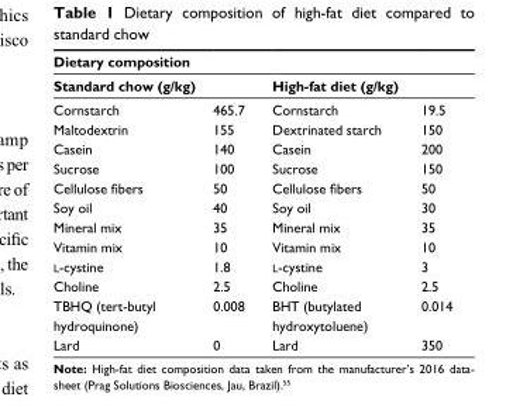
<table><thead><tr><td colspan="4">Dietary composition</td></tr><tr><td>Standard chow (g/kg)</td><td></td><td>High-fat diet (g/kg)</td><td></td></tr></thead><tbody><tr><td>Cornstarch</td><td>465.7</td><td>Cornstarch</td><td>19.5</td></tr><tr><td>Maltodextrin</td><td>155</td><td>Dextrinated starch</td><td>150</td></tr><tr><td>Casein</td><td>140</td><td>Casein</td><td>200</td></tr><tr><td>Sucrose</td><td>100</td><td>Sucrose</td><td>150</td></tr><tr><td>Cellulose fibers</td><td>50</td><td>Cellulose fibers</td><td>50</td></tr><tr><td>Soy oil</td><td>40</td><td>Soy oil</td><td>30</td></tr><tr><td>Mineral mix</td><td>35</td><td>Mineral mix</td><td>35</td></tr><tr><td>Vitamin mix</td><td>10</td><td>Vitamin mix</td><td>10</td></tr><tr><td>l-cystine</td><td>1.8</td><td>l-cystine</td><td>3</td></tr><tr><td>Choline</td><td>2.5</td><td>Choline</td><td>2.5</td></tr><tr><td>TBHQ (tert-butyl hydroquinone)</td><td>0.008</td><td>BHT (butylated hydroxytoluene)</td><td>0.014</td></tr><tr><td>Lard</td><td>0</td><td>Lard</td><td>350</td></tr></tbody></table>